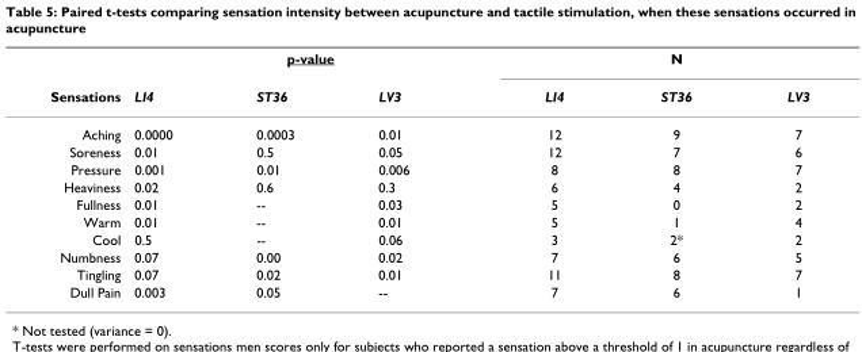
<table><thead><tr><td rowspan="2">Sensations</td><td colspan="3">p-value</td><td colspan="3">N</td></tr><tr><td>LI4</td><td>ST36</td><td>LV3</td><td>LI4</td><td>ST36</td><td>LV3</td></tr></thead><tbody><tr><td>Aching</td><td>0.0000</td><td>0.0003</td><td>0.01</td><td>12</td><td>9</td><td>7</td></tr><tr><td>Soreness</td><td>0.01</td><td>0.5</td><td>0.05</td><td>12</td><td>7</td><td>6</td></tr><tr><td>Pressure</td><td>0.001</td><td>0.01</td><td>0.006</td><td>8</td><td>8</td><td>7</td></tr><tr><td>Heaviness</td><td>0.02</td><td>0.6</td><td>0.3</td><td>6</td><td>4</td><td>2</td></tr><tr><td>Fullness</td><td>0.01</td><td>--</td><td>0.03</td><td>5</td><td>0</td><td>2</td></tr><tr><td>Warm</td><td>0.01</td><td>--</td><td>0.01</td><td>5</td><td>1</td><td>4</td></tr><tr><td>Cool</td><td>0.5</td><td>--</td><td>0.06</td><td>3</td><td>2*</td><td>2</td></tr><tr><td>Numbness</td><td>0.07</td><td>0.00</td><td>0.02</td><td>7</td><td>6</td><td>5</td></tr><tr><td>Tingling</td><td>0.07</td><td>0.02</td><td>0.01</td><td>11</td><td>8</td><td>7</td></tr><tr><td>Dull Pain</td><td>0.003</td><td>0.05</td><td>--</td><td>7</td><td>6</td><td>1</td></tr></tbody></table>